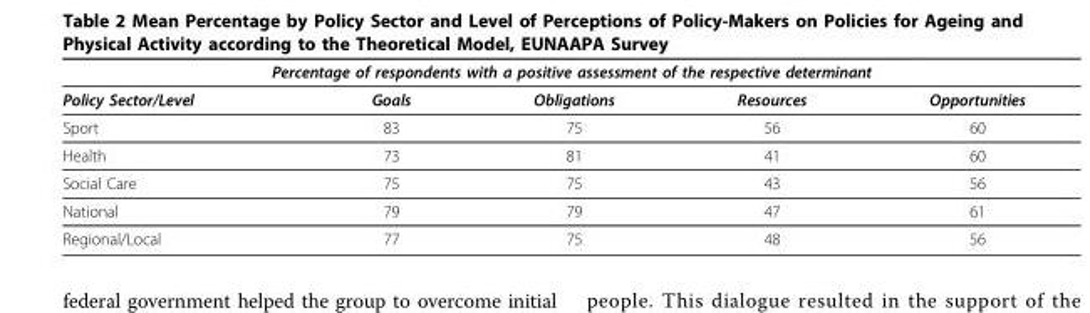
<table><thead><tr><td colspan="5">Percentage of respondents with a positive assessment of the respective determinant</td></tr><tr><td>Policy Sector/Level</td><td>Goals</td><td>Obligations</td><td>Resources</td><td>Opportunities</td></tr></thead><tbody><tr><td>Sport</td><td>83</td><td>75</td><td>56</td><td>60</td></tr><tr><td>Health</td><td>73</td><td>81</td><td>41</td><td>60</td></tr><tr><td>Social Care</td><td>75</td><td>75</td><td>43</td><td>56</td></tr><tr><td>National</td><td>79</td><td>79</td><td>47</td><td>61</td></tr><tr><td>Regional/Local</td><td>77</td><td>75</td><td>48</td><td>56</td></tr></tbody></table>